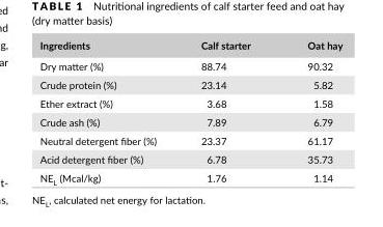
<table><thead><tr><td>Ingredients</td><td>Calf starter</td><td>Oat hay</td></tr></thead><tbody><tr><td>Dry matter (%)</td><td>88.74</td><td>90.32</td></tr><tr><td>Crude protein (%)</td><td>23.14</td><td>5.82</td></tr><tr><td>Ether extract (%)</td><td>3.68</td><td>1.58</td></tr><tr><td>Crude ash (%)</td><td>7.89</td><td>6.79</td></tr><tr><td>Neutral detergent fiber (%)</td><td>23.37</td><td>61.17</td></tr><tr><td>Acid detergent fiber (%)</td><td>6.78</td><td>35.73</td></tr><tr><td>NE<sub>L</sub> (Mcal/kg)</td><td>1.76</td><td>1.14</td></tr></tbody></table>